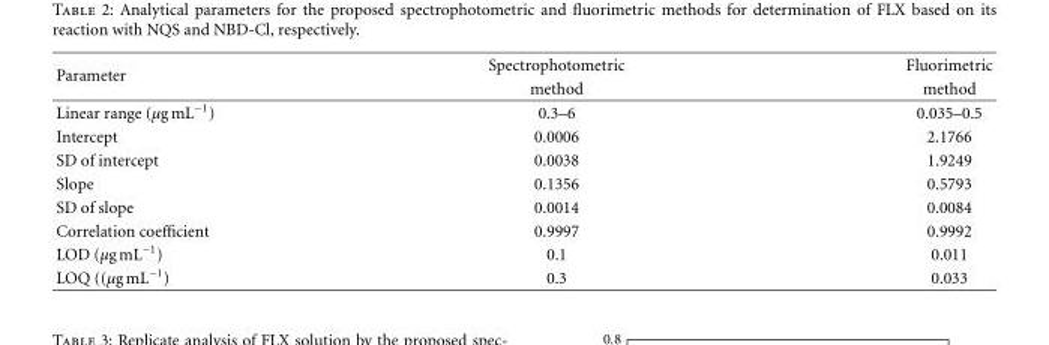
<table><thead><tr><td rowspan="2">Parameter</td><td rowspan="2">Spectrophotometric method</td><td rowspan="2">Fluorimetric method</td></tr><tr></tr></thead><tbody><tr><td>Linear range (μgmL<sup>−1</sup>)</td><td>0.3–6</td><td>0.035–0.5</td></tr><tr><td>Intercept</td><td>0.0006</td><td>2.1766</td></tr><tr><td>SD of intercept</td><td>0.0038</td><td>1.9249</td></tr><tr><td>Slope</td><td>0.1356</td><td>0.5793</td></tr><tr><td>SD of slope</td><td>0.0014</td><td>0.0084</td></tr><tr><td>Correlation coefficient</td><td>0.9997</td><td>0.9992</td></tr><tr><td>LOD (μgmL<sup>−1</sup>)</td><td>0.1</td><td>0.011</td></tr><tr><td>LOQ ((μgmL<sup>−1</sup>)</td><td>0.3</td><td>0.033</td></tr></tbody></table>